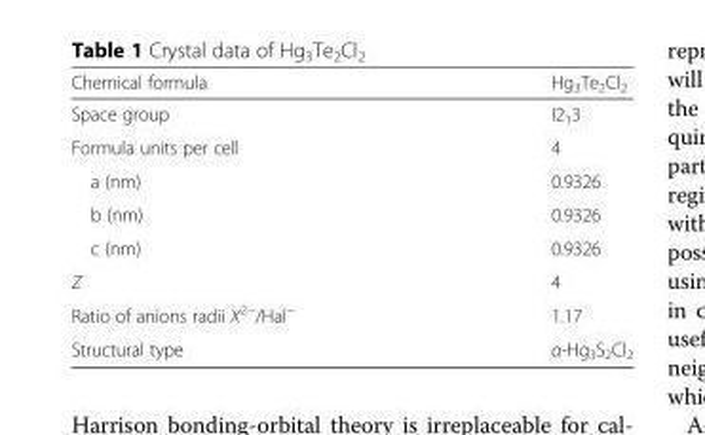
<table><thead><tr><td>Chemical formula</td><td>Hg<sub>3</sub>Te<sub>2</sub>Cl<sub>2</sub></td></tr></thead><tbody><tr><td>Space group</td><td>I2<sub>1</sub>3</td></tr><tr><td>Formula units per cell</td><td>4</td></tr><tr><td>a (nm)</td><td>0.9326</td></tr><tr><td>b (nm)</td><td>0.9326</td></tr><tr><td>c (nm)</td><td>0.9326</td></tr><tr><td>Z</td><td>4</td></tr><tr><td>Ratio of anions radii X<sup>2−</sup>/Hal<sup>−</sup></td><td>1.17</td></tr><tr><td>Structural type</td><td>α-Hg<sub>3</sub>S<sub>2</sub>Cl<sub>2</sub></td></tr></tbody></table>